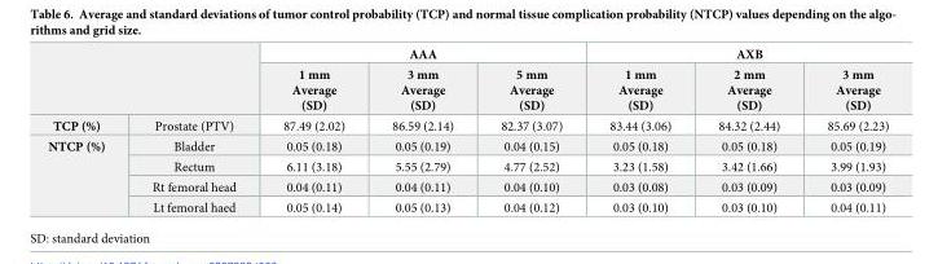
<table><thead><tr><td rowspan="2"></td><td rowspan="2"></td><td colspan="3">AAA</td><td colspan="3">AXB</td></tr><tr><td>1 mm Average (SD)</td><td>3 mm Average (SD)</td><td>5 mm Average (SD)</td><td>1 mm Average (SD)</td><td>2 mm Average (SD)</td><td>3 mm Average (SD)</td></tr></thead><tbody><tr><td>TCP (%)</td><td>Prostate (PTV)</td><td>87.49 (2.02)</td><td>86.59 (2.14)</td><td>82.37 (3.07)</td><td>83.44 (3.06)</td><td>84.32 (2.44)</td><td>85.69 (2.23)</td></tr><tr><td rowspan="4">NTCP (%)</td><td>Bladder</td><td>0.05 (0.18)</td><td>0.05 (0.19)</td><td>0.04 (0.15)</td><td>0.05 (0.18)</td><td>0.05 (0.18)</td><td>0.05 (0.19)</td></tr><tr><td>Rectum</td><td>6.11 (3.18)</td><td>5.55 (2.79)</td><td>4.77 (2.52)</td><td>3.23 (1.58)</td><td>3.42 (1.66)</td><td>3.99 (1.93)</td></tr><tr><td>Rt femoral head</td><td>0.04 (0.11)</td><td>0.04 (0.11)</td><td>0.04 (0.10)</td><td>0.03 (0.08)</td><td>0.03 (0.09)</td><td>0.03 (0.09)</td></tr><tr><td>Lt femoral haed</td><td>0.05 (0.14)</td><td>0.05 (0.13)</td><td>0.04 (0.12)</td><td>0.03 (0.10)</td><td>0.03 (0.10)</td><td>0.04 (0.11)</td></tr></tbody></table>